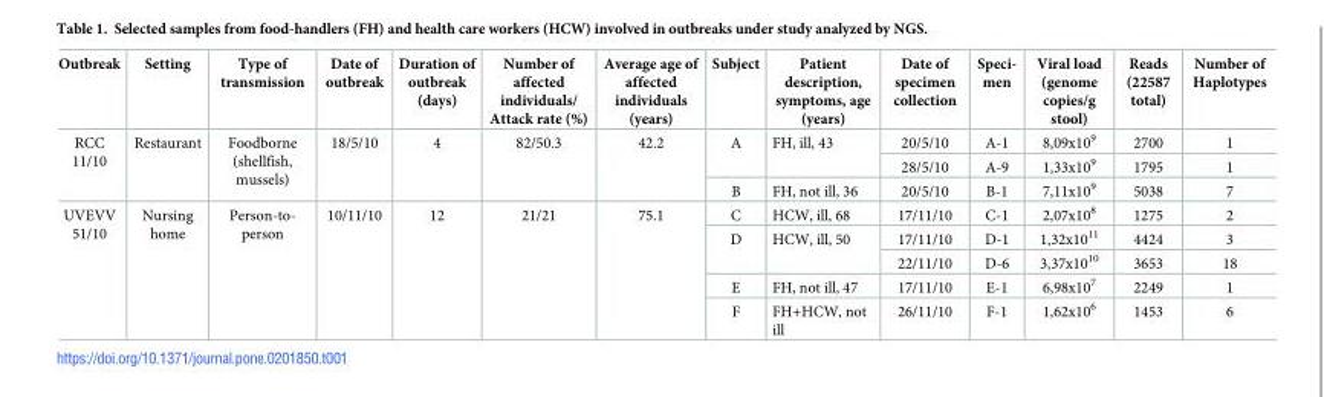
<table><thead><tr><td>Outbreak</td><td>Setting</td><td>Type of transmission</td><td>Date of outbreak</td><td>Duration of outbreak (days)</td><td>Number of affected individuals/ Attack rate (%)</td><td>Average age of affected individuals (years)</td><td>Subject</td><td>Patient description, symptoms, age (years)</td><td>Date of specimen collection</td><td>Speci- men</td><td>Viral load (genome copies/g stool)</td><td>Reads (22587 total)</td><td>Number of Haplotypes</td></tr></thead><tbody><tr><td rowspan="3">RCC 11/10</td><td rowspan="3">Restaurant</td><td rowspan="3">Foodborne (shellfish, mussels)</td><td rowspan="3">18/5/10</td><td rowspan="3">4</td><td rowspan="3">82/50.3</td><td rowspan="3">42.2</td><td rowspan="2">A</td><td rowspan="2">FH, ill, 43</td><td>20/5/10</td><td>A-1</td><td>8,09x10<sup>9</sup></td><td>2700</td><td>1</td></tr><tr><td>28/5/10</td><td>A-9</td><td>1,33x10<sup>9</sup></td><td>1795</td><td>1</td></tr><tr><td>B</td><td>FH, not ill, 36</td><td>20/5/10</td><td>B-1</td><td>7,11x10<sup>9</sup></td><td>5038</td><td>7</td></tr><tr><td rowspan="5">UVEVV 51/10</td><td rowspan="5">Nursing home</td><td rowspan="5">Person-to- person</td><td rowspan="5">10/11/10</td><td rowspan="5">12</td><td rowspan="5">21/21</td><td rowspan="5">75.1</td><td>C</td><td>HCW, ill, 68</td><td>17/11/10</td><td>C-1</td><td>2,07x10<sup>8</sup></td><td>1275</td><td>2</td></tr><tr><td rowspan="2">D</td><td rowspan="2">HCW, ill, 50</td><td>17/11/10</td><td>D-1</td><td>1,32x10<sup>11</sup></td><td>4424</td><td>3</td></tr><tr><td>22/11/10</td><td>D-6</td><td>3,37x10<sup>10</sup></td><td>3653</td><td>18</td></tr><tr><td>E</td><td>FH, not ill, 47</td><td>17/11/10</td><td>E-1</td><td>6,98x10<sup>7</sup></td><td>2249</td><td>1</td></tr><tr><td>F</td><td>FH+HCW, not ill</td><td>26/11/10</td><td>F-1</td><td>1,62x10<sup>6</sup></td><td>1453</td><td>6</td></tr></tbody></table>